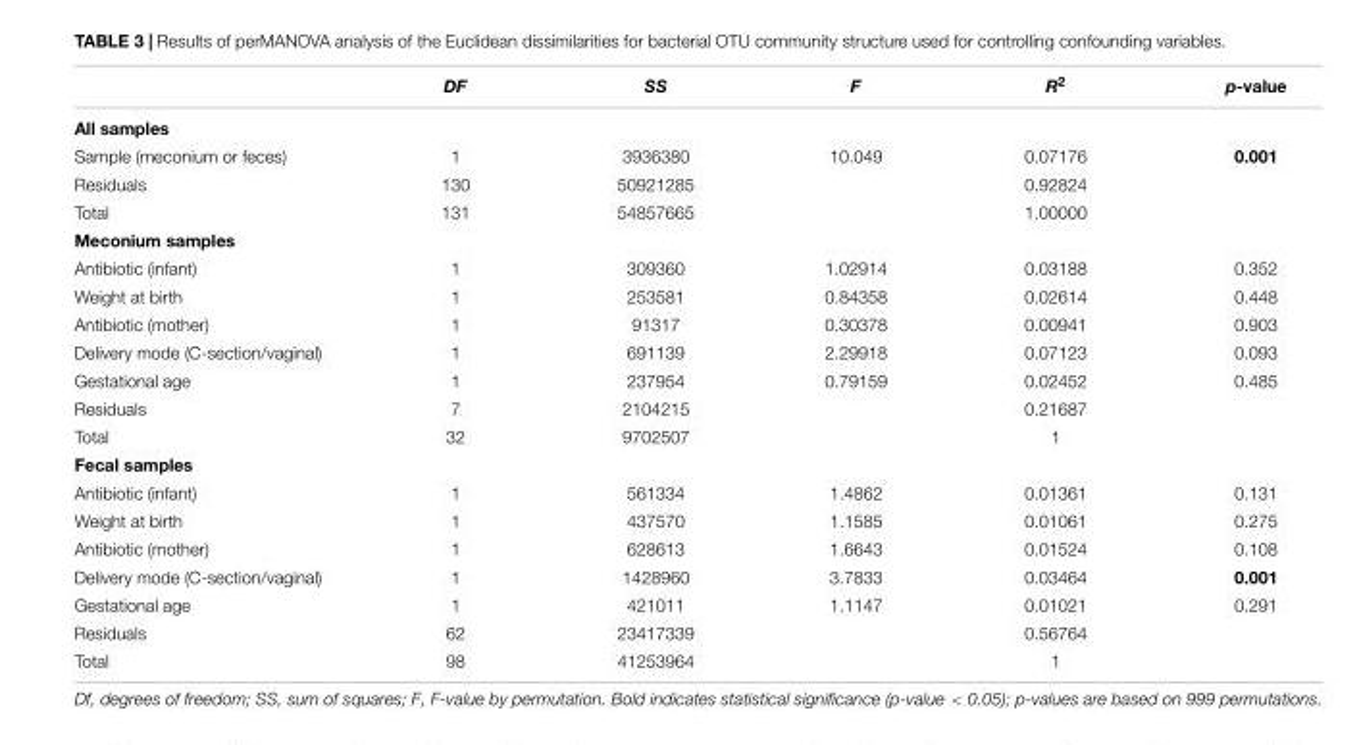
<table><thead><tr><td></td><td>DF</td><td>SS</td><td>F</td><td>R<sup>2</sup></td><td>p-value</td></tr></thead><tbody><tr><td colspan="6">All samples</td></tr><tr><td>Sample (meconium or feces)</td><td>1</td><td>3936380</td><td>10.049</td><td>0.07176</td><td>0.001</td></tr><tr><td>Residuals</td><td>130</td><td>50921285</td><td></td><td>0.92824</td><td></td></tr><tr><td>Total</td><td>131</td><td>54857665</td><td></td><td>1.00000</td><td></td></tr><tr><td colspan="6">Meconium samples</td></tr><tr><td>Antibiotic (infant)</td><td>1</td><td>309360</td><td>1.02914</td><td>0.03188</td><td>0.352</td></tr><tr><td>Weight at birth</td><td>1</td><td>253581</td><td>0.84358</td><td>0.02614</td><td>0.448</td></tr><tr><td>Antibiotic (mother)</td><td>1</td><td>91317</td><td>0.30378</td><td>0.00941</td><td>0.903</td></tr><tr><td>Delivery mode (C-section/vaginal)</td><td>1</td><td>691139</td><td>2.29918</td><td>0.07123</td><td>0.093</td></tr><tr><td>Gestational age</td><td>1</td><td>237954</td><td>0.79159</td><td>0.02452</td><td>0.485</td></tr><tr><td>Residuals</td><td>7</td><td>2104215</td><td></td><td>0.21687</td><td></td></tr><tr><td>Total</td><td>32</td><td>9702507</td><td></td><td>1</td><td></td></tr><tr><td colspan="6">Fecal samples</td></tr><tr><td>Antibiotic (infant)</td><td>1</td><td>561334</td><td>1.4862</td><td>0.01361</td><td>0.131</td></tr><tr><td>Weight at birth</td><td>1</td><td>437570</td><td>1.1585</td><td>0.01061</td><td>0.275</td></tr><tr><td>Antibiotic (mother)</td><td>1</td><td>628613</td><td>1.6643</td><td>0.01524</td><td>0.108</td></tr><tr><td>Delivery mode (C-section/vaginal)</td><td>1</td><td>1428960</td><td>3.7833</td><td>0.03464</td><td>0.001</td></tr><tr><td>Gestational age</td><td>1</td><td>421011</td><td>1.1147</td><td>0.01021</td><td>0.291</td></tr><tr><td>Residuals</td><td>62</td><td>23417339</td><td></td><td>0.56764</td><td></td></tr><tr><td>Total</td><td>98</td><td>41253964</td><td></td><td>1</td><td></td></tr></tbody></table>